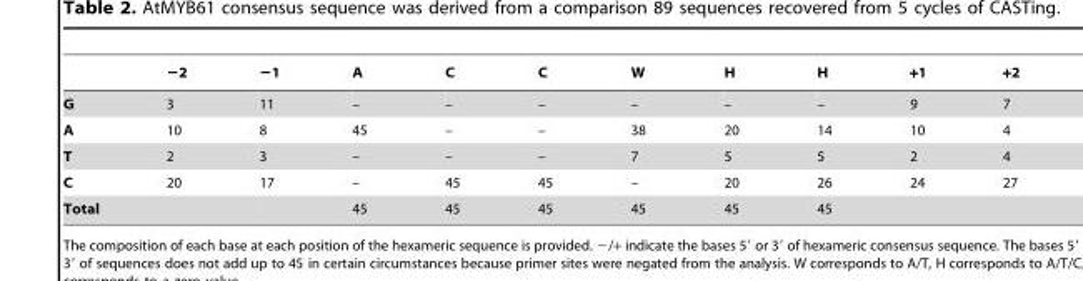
<table><thead><tr><td></td><td>−2</td><td>−1</td><td>A</td><td>C</td><td>C</td><td>W</td><td>H</td><td>H</td><td>+1</td><td>+2</td></tr></thead><tbody><tr><td>G</td><td>3</td><td>11</td><td>–</td><td>–</td><td>–</td><td>–</td><td>–</td><td>–</td><td>9</td><td>7</td></tr><tr><td>A</td><td>10</td><td>8</td><td>45</td><td>–</td><td>–</td><td>38</td><td>20</td><td>14</td><td>10</td><td>4</td></tr><tr><td>T</td><td>2</td><td>3</td><td>–</td><td>–</td><td>–</td><td>7</td><td>5</td><td>5</td><td>2</td><td>4</td></tr><tr><td>C</td><td>20</td><td>17</td><td>–</td><td>45</td><td>45</td><td>–</td><td>20</td><td>26</td><td>24</td><td>27</td></tr><tr><td>Total</td><td></td><td></td><td>45</td><td>45</td><td>45</td><td>45</td><td>45</td><td>45</td><td></td><td></td></tr></tbody></table>